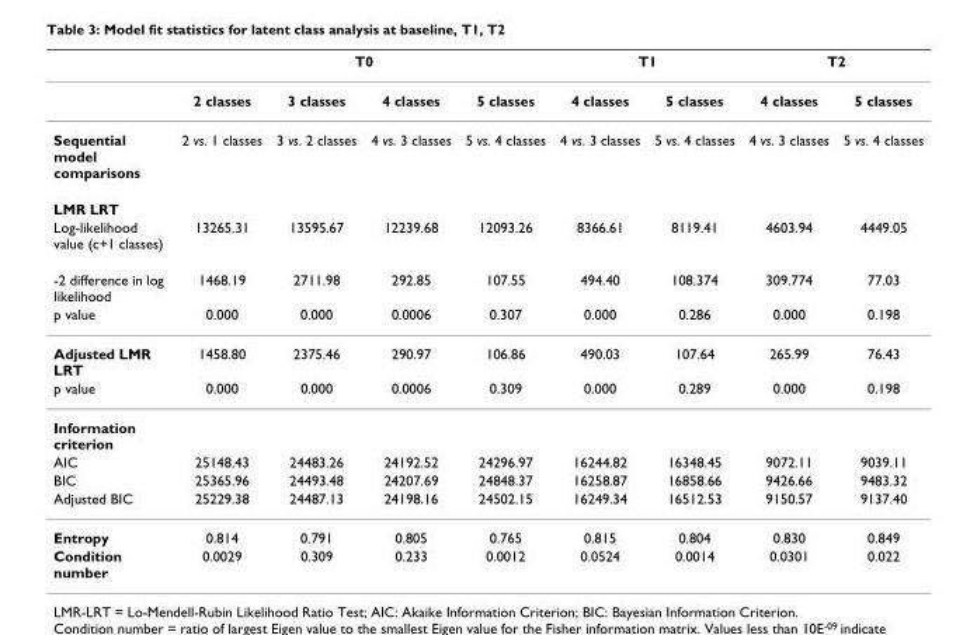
<table><thead><tr><td rowspan="2"></td><td colspan="4">T0</td><td colspan="2">T1</td><td colspan="2">T2</td></tr><tr><td>2 classes</td><td>3 classes</td><td>4 classes</td><td>5 classes</td><td>4 classes</td><td>5 classes</td><td>4 classes</td><td>5 classes</td></tr></thead><tbody><tr><td>Sequential model comparisons</td><td>2 vs. 1 classes</td><td>3 vs. 2 classes</td><td>4 vs. 3 classes</td><td>5 vs. 4 classes</td><td>4 vs. 3 classes</td><td>5 vs. 4 classes</td><td>4 vs. 3 classes</td><td>5 vs. 4 classes</td></tr><tr><td colspan="9">LMR LRT</td></tr><tr><td>Log-likelihood value (c+1 classes)</td><td>13265.31</td><td>13595.67</td><td>12239.68</td><td>12093.26</td><td>8366.61</td><td>8119.41</td><td>4603.94</td><td>4449.05</td></tr><tr><td>-2 difference in log likelihood</td><td>1468.19</td><td>2711.98</td><td>292.85</td><td>107.55</td><td>494.40</td><td>108.374</td><td>309.774</td><td>77.03</td></tr><tr><td>p value</td><td>0.000</td><td>0.000</td><td>0.0006</td><td>0.307</td><td>0.000</td><td>0.286</td><td>0.000</td><td>0.198</td></tr><tr><td>Adjusted LMR LRT</td><td>1458.80</td><td>2375.46</td><td>290.97</td><td>106.86</td><td>490.03</td><td>107.64</td><td>265.99</td><td>76.43</td></tr><tr><td>p value</td><td>0.000</td><td>0.000</td><td>0.0006</td><td>0.309</td><td>0.000</td><td>0.289</td><td>0.000</td><td>0.198</td></tr><tr><td colspan="9">Information criterion</td></tr><tr><td>AIC</td><td>25148.43</td><td>24483.26</td><td>24192.52</td><td>24296.97</td><td>16244.82</td><td>16348.45</td><td>9072.11</td><td>9039.11</td></tr><tr><td>BIC</td><td>25365.96</td><td>24493.48</td><td>24207.69</td><td>24848.37</td><td>16258.87</td><td>16858.66</td><td>9426.66</td><td>9483.32</td></tr><tr><td>Adjusted BIC</td><td>25229.38</td><td>24487.13</td><td>24198.16</td><td>24502.15</td><td>16249.34</td><td>16512.53</td><td>9150.57</td><td>9137.40</td></tr><tr><td>Entropy</td><td>0.814</td><td>0.791</td><td>0.805</td><td>0.765</td><td>0.815</td><td>0.804</td><td>0.830</td><td>0.849</td></tr><tr><td>Condition number</td><td>0.0029</td><td>0.309</td><td>0.233</td><td>0.0012</td><td>0.0524</td><td>0.0014</td><td>0.0301</td><td>0.022</td></tr></tbody></table>